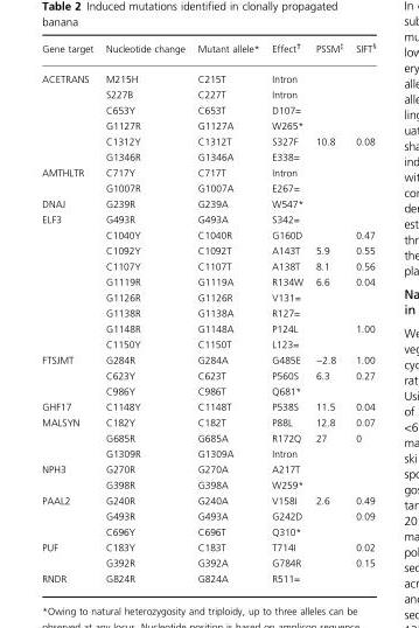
<table><thead><tr><td>Gene target</td><td>Nucleotide change</td><td>Mutant allele*</td><td>Effect†</td><td>PSSM‡</td><td>SIFT§</td></tr></thead><tbody><tr><td rowspan="6">ACETRANS</td><td>M215H</td><td>C215T</td><td>Intron</td><td></td><td></td></tr><tr><td>S227B</td><td>C227T</td><td>Intron</td><td></td><td></td></tr><tr><td>C653Y</td><td>C653T</td><td>D107=</td><td></td><td></td></tr><tr><td>G1127R</td><td>G1127A</td><td>W265*</td><td></td><td></td></tr><tr><td>C1312Y</td><td>C1312T</td><td>S327F</td><td>10.8</td><td>0.08</td></tr><tr><td>G1346R</td><td>G1346A</td><td>E338=</td><td></td><td></td></tr><tr><td rowspan="2">AMTHLTR</td><td>C717Y</td><td>C717T</td><td>Intron</td><td></td><td></td></tr><tr><td>G1007R</td><td>G1007A</td><td>E267=</td><td></td><td></td></tr><tr><td>DNAJ</td><td>G239R</td><td>G239A</td><td>W547*</td><td></td><td></td></tr><tr><td rowspan="9">ELF3</td><td>G493R</td><td>G493A</td><td>S342=</td><td></td><td></td></tr><tr><td>C1040Y</td><td>C1040R</td><td>G160D</td><td></td><td>0.47</td></tr><tr><td>C1092Y</td><td>C1092T</td><td>A143T</td><td>5.9</td><td>0.55</td></tr><tr><td>C1107Y</td><td>C1107T</td><td>A138T</td><td>8.1</td><td>0.56</td></tr><tr><td>G1119R</td><td>G1119A</td><td>R134W</td><td>6.6</td><td>0.04</td></tr><tr><td>G1126R</td><td>G1126R</td><td>V131=</td><td></td><td></td></tr><tr><td>G1138R</td><td>G1138A</td><td>R127=</td><td></td><td></td></tr><tr><td>G1148R</td><td>G1148A</td><td>P124L</td><td></td><td>1.00</td></tr><tr><td>C1150Y</td><td>C1150T</td><td>L123=</td><td></td><td></td></tr><tr><td rowspan="3">FTSJMT</td><td>G284R</td><td>G284A</td><td>G485E</td><td>−2.8</td><td>1.00</td></tr><tr><td>C623Y</td><td>C623T</td><td>P560S</td><td>6.3</td><td>0.27</td></tr><tr><td>C986Y</td><td>C986T</td><td>Q681*</td><td></td><td></td></tr><tr><td>GHF17</td><td>C1148Y</td><td>C1148T</td><td>P538S</td><td>11.5</td><td>0.04</td></tr><tr><td rowspan="3">MALSYN</td><td>C182Y</td><td>C182T</td><td>P88L</td><td>12.8</td><td>0.07</td></tr><tr><td>G685R</td><td>G685A</td><td>R172Q</td><td>27</td><td>0</td></tr><tr><td>G1309R</td><td>G1309A</td><td>Intron</td><td></td><td></td></tr><tr><td rowspan="2">NPH3</td><td>G270R</td><td>G270A</td><td>A217T</td><td></td><td></td></tr><tr><td>G398R</td><td>G398A</td><td>W259*</td><td></td><td></td></tr><tr><td rowspan="3">PAAL2</td><td>G240R</td><td>G240A</td><td>V158I</td><td>2.6</td><td>0.49</td></tr><tr><td>G493R</td><td>G493A</td><td>G242D</td><td></td><td>0.09</td></tr><tr><td>C696Y</td><td>C696T</td><td>Q310*</td><td></td><td></td></tr><tr><td rowspan="2">PUF</td><td>C183Y</td><td>C183T</td><td>T714I</td><td></td><td>0.02</td></tr><tr><td>G392R</td><td>G392A</td><td>G784R</td><td></td><td>0.15</td></tr><tr><td>RNDR</td><td>G824R</td><td>G824A</td><td>R511=</td><td></td><td></td></tr></tbody></table>